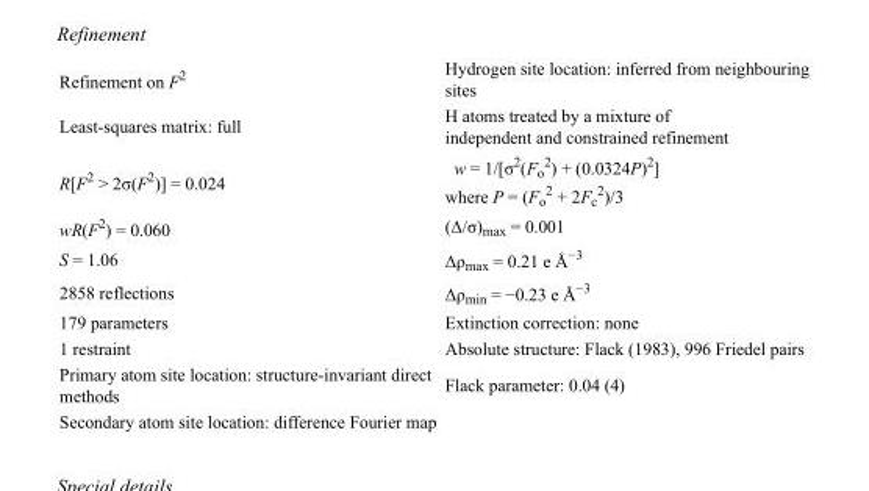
<table><tbody><tr><td>Refinement on F<sup>2</sup></td><td>Hydrogen site location: inferred from neighbouring sites</td></tr><tr><td>Least-squares matrix: full</td><td>H atoms treated by a mixture of independent and constrained refinement</td></tr><tr><td>R[F<sup>2</sup> &gt; 2σ(F<sup>2</sup>)] = 0.024</td><td>w = 1/[σ<sup>2</sup>(F<sub>o</sub> <sup>2</sup>) + (0.0324P)<sup>2</sup>] where P = (F<sub>o</sub> <sup>2</sup> + 2F<sub>c</sub> <sup>2</sup>)/3</td></tr><tr><td>wR(F<sup>2</sup>) = 0.060</td><td>(Δ/σ)<sub>max</sub> = 0.001</td></tr><tr><td>S = 1.06</td><td>Δρ<sub>max</sub> = 0.21 e Å<sup>−3</sup></td></tr><tr><td>2858 reflections</td><td>Δρ<sub>min</sub> = −0.23 e Å<sup>−3</sup></td></tr><tr><td>179 parameters</td><td>Extinction correction: none</td></tr><tr><td>1 restraint</td><td>Absolute structure: Flack (1983), 996 Friedel pairs</td></tr><tr><td>Primary atom site location: structure-invariant direct methods</td><td>Flack parameter: 0.04 (4)</td></tr><tr><td>Secondary atom site location: difference Fourier map</td><td></td></tr></tbody></table>